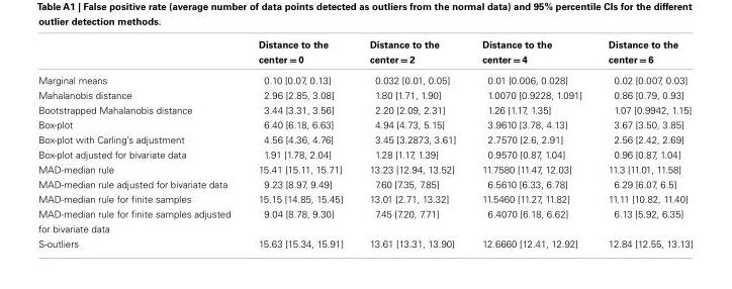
<table><thead><tr><td></td><td>Distance to the center = 0</td><td>Distance to the center = 2</td><td>Distance to the center = 4</td><td>Distance to the center = 6</td></tr></thead><tbody><tr><td>Marginal means</td><td>0.10 [0.07, 0.13]</td><td>0.032 [0.01, 0.05]</td><td>0.01 [0.006, 0.028]</td><td>0.02 [0.007, 0.03]</td></tr><tr><td>Mahalanobis distance</td><td>2.96 [2.85, 3.08]</td><td>1.80 [1.71, 1.90]</td><td>1.0070 [0.9228, 1.091]</td><td>0.86 [0.79, 0.93]</td></tr><tr><td>Bootstrapped Mahalanobis distance</td><td>3.44 [3.31, 3.56]</td><td>2.20 [2.09, 2.31]</td><td>1.26 [1.17, 1.35]</td><td>1.07 [0.9942, 1.15]</td></tr><tr><td>Box-plot</td><td>6.40 [6.18, 6.63]</td><td>4.94 [4.73, 5.15]</td><td>3.9610 [3.78, 4.13]</td><td>3.67 [3.50, 3.85]</td></tr><tr><td>Box-plot with Carling’s adjustment</td><td>4.56 [4.36, 4.76]</td><td>3.45 [3.2873, 3.61]</td><td>2.7570 [2.6, 2.91]</td><td>2.56 [2.42, 2.69]</td></tr><tr><td>Box-plot adjusted for bivariate data</td><td>1.91 [1.78, 2.04]</td><td>1.28 [1.17, 1.39]</td><td>0.9570 [0.87, 1.04]</td><td>0.96 [0.87, 1.04]</td></tr><tr><td>MAD-median rule</td><td>15.41 [15.11, 15.71]</td><td>13.23 [12.94, 13.52]</td><td>11.7580 [11.47, 12.03]</td><td>11.3 [11.01, 11.58]</td></tr><tr><td>MAD-median rule adjusted for bivariate data</td><td>9.23 [8.97, 9.49]</td><td>7.60 [7.35, 7.85]</td><td>6.5610 [6.33, 6.78]</td><td>6.29 [6.07, 6.5]</td></tr><tr><td>MAD-median rule for finite samples</td><td>15.15 [14.85, 15.45]</td><td>13.01 [2.71, 13.32]</td><td>11.5460 [11.27, 11.82]</td><td>11.11 [10.82, 11.40]</td></tr><tr><td>MAD-median rule for finite samples adjusted for bivariate data</td><td>9.04 [8.78, 9.30]</td><td>7.45 [7.20, 7.71]</td><td>6.4070 [6.18, 6.62]</td><td>6.13 [5.92, 6.35]</td></tr><tr><td>S-outliers</td><td>15.63 [15.34, 15.91]</td><td>13.61 [13.31, 13.90]</td><td>12.6660 [12.41, 12.92]</td><td>12.84 [12.55, 13.13]</td></tr></tbody></table>